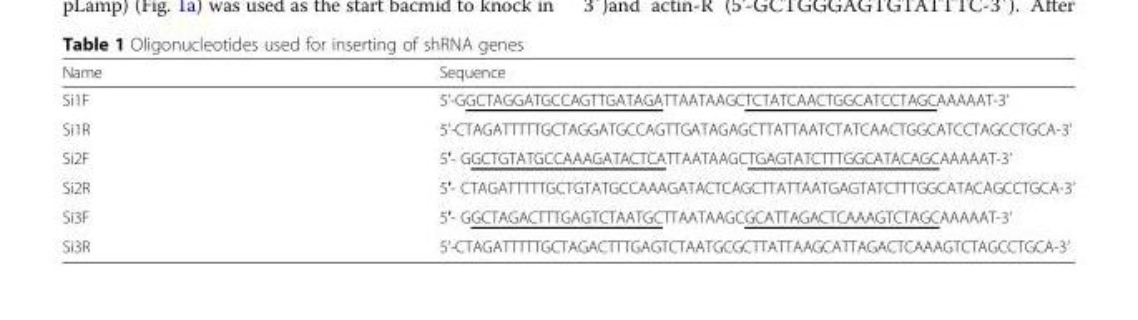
<table><thead><tr><td>Name</td><td>Sequence</td></tr></thead><tbody><tr><td>Si1F</td><td>5’-GGCTAGGATGCCAGTTGATAGATTAATAAGCTCTATCAACTGGCATCCTAGCAAAAAT-3’</td></tr><tr><td>Si1R</td><td>5’-CTAGATTTTTGCTAGGATGCCAGTTGATAGAGCTTATTAATCTATCAACTGGCATCCTAGCCTGCA-3’</td></tr><tr><td>Si2F</td><td>5′- GGCTGTATGCCAAAGATACTCATTAATAAGCTGAGTATCTTTGGCATACAGCAAAAAT-3’</td></tr><tr><td>Si2R</td><td>5′- CTAGATTTTTGCTGTATGCCAAAGATACTCAGCTTATTAATGAGTATCTTTGGCATACAGCCTGCA-3’</td></tr><tr><td>Si3F</td><td>5′- GGCTAGACTTTGAGTCTAATGCTTAATAAGCGCATTAGACTCAAAGTCTAGCAAAAAT-3’</td></tr><tr><td>Si3R</td><td>5’-CTAGATTTTTGCTAGACTTTGAGTCTAATGCGCTTATTAAGCATTAGACTCAAAGTCTAGCCTGCA-3’</td></tr></tbody></table>